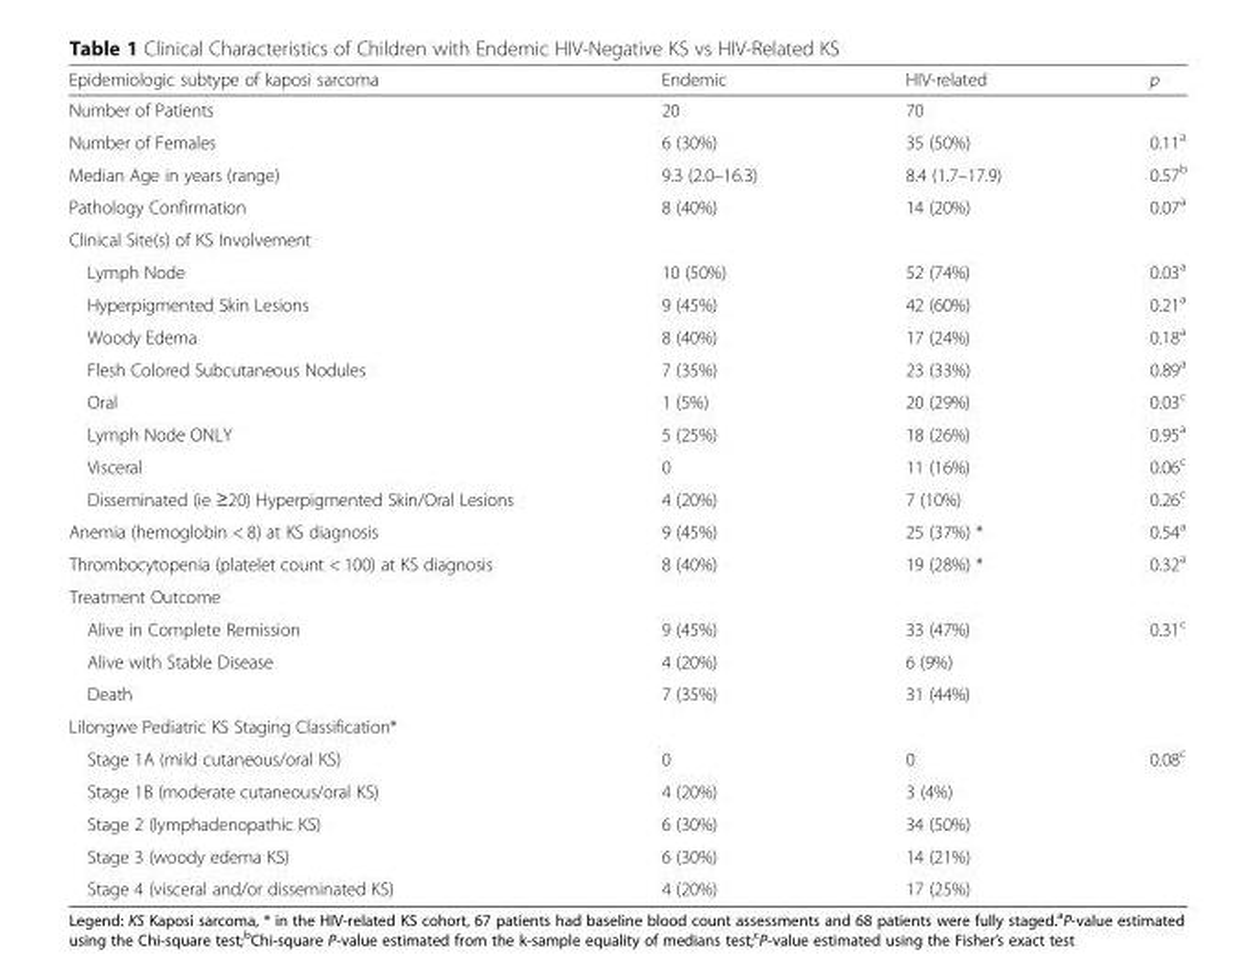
<table><thead><tr><td>Epidemiologic subtype of kaposi sarcoma</td><td>Endemic</td><td>HIV-related</td><td>p</td></tr></thead><tbody><tr><td>Number of Patients</td><td>20</td><td>70</td><td></td></tr><tr><td>Number of Females</td><td>6 (30%)</td><td>35 (50%)</td><td>0.11<sup>a</sup></td></tr><tr><td>Median Age in years (range)</td><td>9.3 (2.0–16.3)</td><td>8.4 (1.7–17.9)</td><td>0.57<sup>b</sup></td></tr><tr><td>Pathology Confirmation</td><td>8 (40%)</td><td>14 (20%)</td><td>0.07<sup>a</sup></td></tr><tr><td colspan="4">Clinical Site(s) of KS Involvement</td></tr><tr><td>Lymph Node</td><td>10 (50%)</td><td>52 (74%)</td><td>0.03<sup>a</sup></td></tr><tr><td>Hyperpigmented Skin Lesions</td><td>9 (45%)</td><td>42 (60%)</td><td>0.21<sup>a</sup></td></tr><tr><td>Woody Edema</td><td>8 (40%)</td><td>17 (24%)</td><td>0.18<sup>a</sup></td></tr><tr><td>Flesh Colored Subcutaneous Nodules</td><td>7 (35%)</td><td>23 (33%)</td><td>0.89<sup>a</sup></td></tr><tr><td>Oral</td><td>1 (5%)</td><td>20 (29%)</td><td>0.03<sup>c</sup></td></tr><tr><td>Lymph Node ONLY</td><td>5 (25%)</td><td>18 (26%)</td><td>0.95<sup>a</sup></td></tr><tr><td>Visceral</td><td>0</td><td>11 (16%)</td><td>0.06<sup>c</sup></td></tr><tr><td>Disseminated (ie ≥20) Hyperpigmented Skin/Oral Lesions</td><td>4 (20%)</td><td>7 (10%)</td><td>0.26<sup>c</sup></td></tr><tr><td>Anemia (hemoglobin &lt; 8) at KS diagnosis</td><td>9 (45%)</td><td>25 (37%) *</td><td>0.54<sup>a</sup></td></tr><tr><td>Thrombocytopenia (platelet count &lt; 100) at KS diagnosis</td><td>8 (40%)</td><td>19 (28%) *</td><td>0.32<sup>a</sup></td></tr><tr><td colspan="4">Treatment Outcome</td></tr><tr><td>Alive in Complete Remission</td><td>9 (45%)</td><td>33 (47%)</td><td rowspan="3">0.31<sup>c</sup></td></tr><tr><td>Alive with Stable Disease</td><td>4 (20%)</td><td>6 (9%)</td></tr><tr><td>Death</td><td>7 (35%)</td><td>31 (44%)</td></tr><tr><td colspan="4">Lilongwe Pediatric KS Staging Classification*</td></tr><tr><td>Stage 1A (mild cutaneous/oral KS)</td><td>0</td><td>0</td><td rowspan="5">0.08<sup>c</sup></td></tr><tr><td>Stage 1B (moderate cutaneous/oral KS)</td><td>4 (20%)</td><td>3 (4%)</td></tr><tr><td>Stage 2 (lymphadenopathic KS)</td><td>6 (30%)</td><td>34 (50%)</td></tr><tr><td>Stage 3 (woody edema KS)</td><td>6 (30%)</td><td>14 (21%)</td></tr><tr><td>Stage 4 (visceral and/or disseminated KS)</td><td>4 (20%)</td><td>17 (25%)</td></tr></tbody></table>